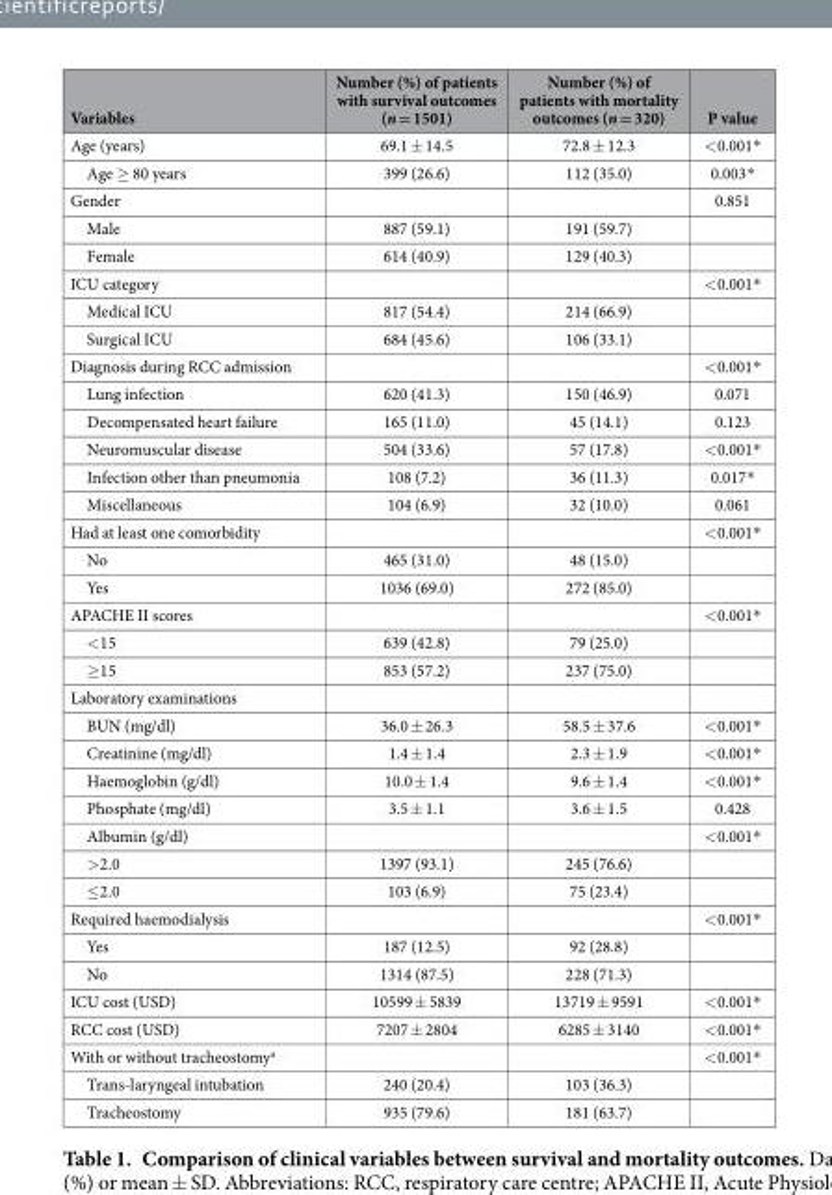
<table><thead><tr><td>Variables</td><td>Number (%) of patients with survival outcomes (n = 1501)</td><td>Number (%) of patients with mortality outcomes (n = 320)</td><td>P value</td></tr></thead><tbody><tr><td>Age (years)</td><td>69.1 ± 14.5</td><td>72.8 ± 12.3</td><td>&lt; 0.001*</td></tr><tr><td>Age ≥ 80 years</td><td>399 (26.6)</td><td>112 (35.0)</td><td>0.003*</td></tr><tr><td>Gender</td><td></td><td></td><td>0.851</td></tr><tr><td>Male</td><td>887 (59.1)</td><td>191 (59.7)</td><td></td></tr><tr><td>Female</td><td>614 (40.9)</td><td>129 (40.3)</td><td></td></tr><tr><td>ICU category</td><td></td><td></td><td>&lt; 0.001*</td></tr><tr><td>Medical ICU</td><td>817 (54.4)</td><td>214 (66.9)</td><td></td></tr><tr><td>Surgical ICU</td><td>684 (45.6)</td><td>106 (33.1)</td><td></td></tr><tr><td>Diagnosis during RCC admission</td><td></td><td></td><td>&lt; 0.001*</td></tr><tr><td>Lung infection</td><td>620 (41.3)</td><td>150 (46.9)</td><td>0.071</td></tr><tr><td>Decompensated heart failure</td><td>165 (11.0)</td><td>45 (14.1)</td><td>0.123</td></tr><tr><td>Neuromuscular disease</td><td>504 (33.6)</td><td>57 (17.8)</td><td>&lt; 0.001*</td></tr><tr><td>Infection other than pneumonia</td><td>108 (7.2)</td><td>36 (11.3)</td><td>0.017*</td></tr><tr><td>Miscellaneous</td><td>104 (6.9)</td><td>32 (10.0)</td><td>0.061</td></tr><tr><td>Had at least one comorbidity</td><td></td><td></td><td>&lt; 0.001*</td></tr><tr><td>No</td><td>465 (31.0)</td><td>48 (15.0)</td><td></td></tr><tr><td>Yes</td><td>1036 (69.0)</td><td>272 (85.0)</td><td></td></tr><tr><td>APACHE II scores</td><td></td><td></td><td>&lt; 0.001*</td></tr><tr><td>&lt; 15</td><td>639 (42.8)</td><td>79 (25.0)</td><td></td></tr><tr><td>≥ 15</td><td>853 (57.2)</td><td>237 (75.0)</td><td></td></tr><tr><td colspan="4">Laboratory examinations</td></tr><tr><td>BUN (mg/dl)</td><td>36.0 ± 26.3</td><td>58.5 ± 37.6</td><td>&lt; 0.001*</td></tr><tr><td>Creatinine (mg/dl)</td><td>1.4 ± 1.4</td><td>2.3 ± 1.9</td><td>&lt; 0.001*</td></tr><tr><td>Haemoglobin (g/dl)</td><td>10.0 ± 1.4</td><td>9.6 ± 1.4</td><td>&lt; 0.001*</td></tr><tr><td>Phosphate (mg/dl)</td><td>3.5 ± 1.1</td><td>3.6 ± 1.5</td><td>0.428</td></tr><tr><td>Albumin (g/dl)</td><td></td><td></td><td>&lt; 0.001*</td></tr><tr><td>&gt; 2.0</td><td>1397 (93.1)</td><td>245 (76.6)</td><td></td></tr><tr><td>≤ 2.0</td><td>103 (6.9)</td><td>75 (23.4)</td><td></td></tr><tr><td>Required haemodialysis</td><td></td><td></td><td>&lt; 0.001*</td></tr><tr><td>Yes</td><td>187 (12.5)</td><td>92 (28.8)</td><td></td></tr><tr><td>No</td><td>1314 (87.5)</td><td>228 (71.3)</td><td></td></tr><tr><td>ICU cost (USD)</td><td>10599 ± 5839</td><td>13719 ± 9591</td><td>&lt; 0.001*</td></tr><tr><td>RCC cost (USD)</td><td>7207 ± 2804</td><td>6285 ± 3140</td><td>&lt; 0.001*</td></tr><tr><td>With or without tracheostomy<sup>a</sup></td><td></td><td></td><td>&lt; 0.001*</td></tr><tr><td>Trans-laryngeal intubation</td><td>240 (20.4)</td><td>103 (36.3)</td><td></td></tr><tr><td>Tracheostomy</td><td>935 (79.6)</td><td>181 (63.7)</td><td></td></tr></tbody></table>